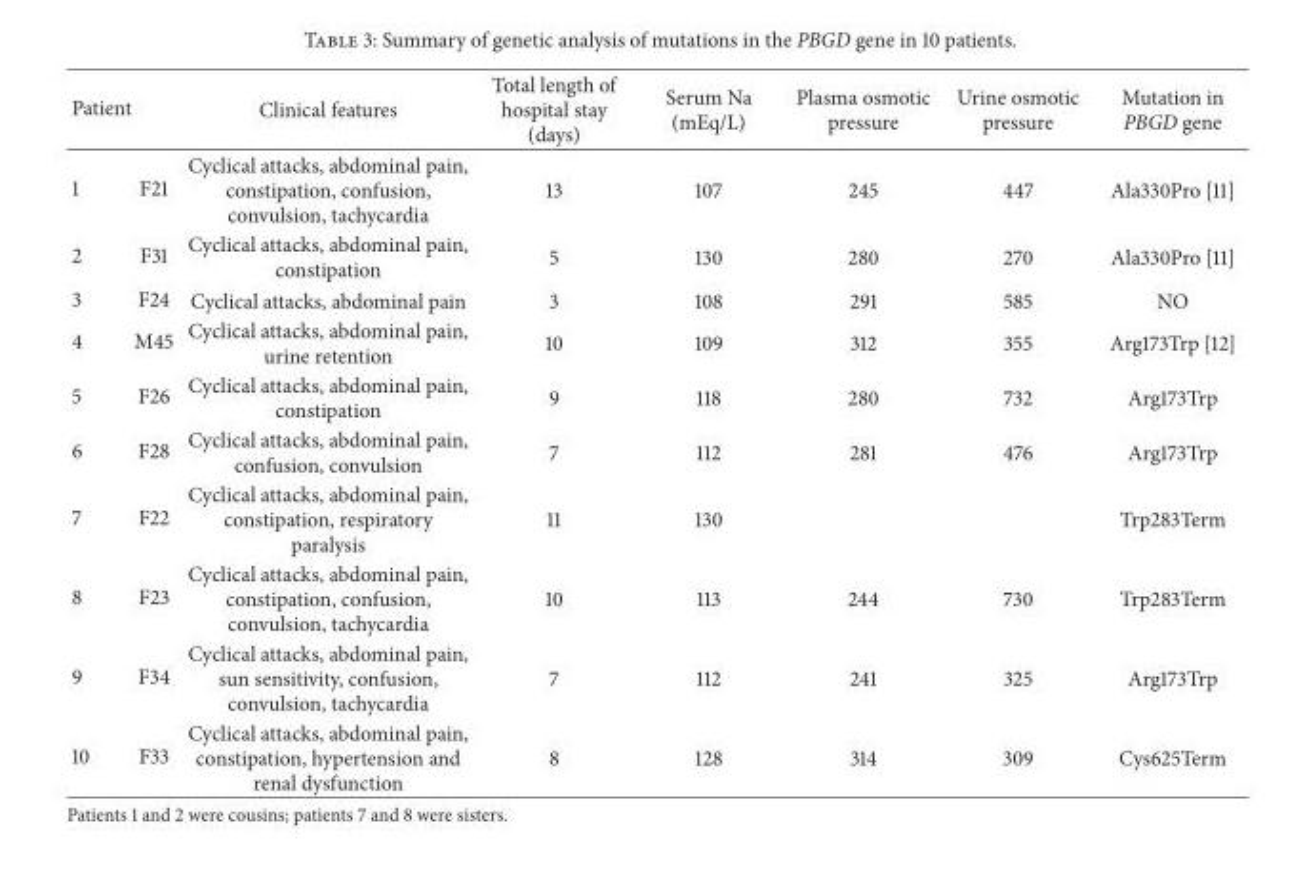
<table><thead><tr><td>Patient</td><td></td><td>Clinical features</td><td>Total length of hospital stay (days)</td><td>Serum Na (mEq/L)</td><td>Plasma osmotic pressure</td><td>Urine osmotic pressure</td><td>Mutation in PBGD gene</td></tr></thead><tbody><tr><td>1</td><td>F21</td><td>Cyclical attacks, abdominal pain, constipation, confusion, convulsion, tachycardia</td><td>13</td><td>107</td><td>245</td><td>447</td><td>Ala330Pro [11]</td></tr><tr><td>2</td><td>F31</td><td>Cyclical attacks, abdominal pain, constipation</td><td>5</td><td>130</td><td>280</td><td>270</td><td>Ala330Pro [11]</td></tr><tr><td>3</td><td>F24</td><td>Cyclical attacks, abdominal pain</td><td>3</td><td>108</td><td>291</td><td>585</td><td>NO</td></tr><tr><td>4</td><td>M45</td><td>Cyclical attacks, abdominal pain, urine retention</td><td>10</td><td>109</td><td>312</td><td>355</td><td>Arg173Trp [12]</td></tr><tr><td>5</td><td>F26</td><td>Cyclical attacks, abdominal pain, constipation</td><td>9</td><td>118</td><td>280</td><td>732</td><td>Arg173Trp</td></tr><tr><td>6</td><td>F28</td><td>Cyclical attacks, abdominal pain, confusion, convulsion</td><td>7</td><td>112</td><td>281</td><td>476</td><td>Arg173Trp</td></tr><tr><td>7</td><td>F22</td><td>Cyclical attacks, abdominal pain, constipation, respiratory paralysis</td><td>11</td><td>130</td><td></td><td></td><td>Trp283Term</td></tr><tr><td>8</td><td>F23</td><td>Cyclical attacks, abdominal pain, constipation, confusion, convulsion, tachycardia</td><td>10</td><td>113</td><td>244</td><td>730</td><td>Trp283Term</td></tr><tr><td>9</td><td>F34</td><td>Cyclical attacks, abdominal pain, sun sensitivity, confusion, convulsion, tachycardia</td><td>7</td><td>112</td><td>241</td><td>325</td><td>Arg173Trp</td></tr><tr><td>10</td><td>F33</td><td>Cyclical attacks, abdominal pain, constipation, hypertension and renal dysfunction</td><td>8</td><td>128</td><td>314</td><td>309</td><td>Cys625Term</td></tr></tbody></table>